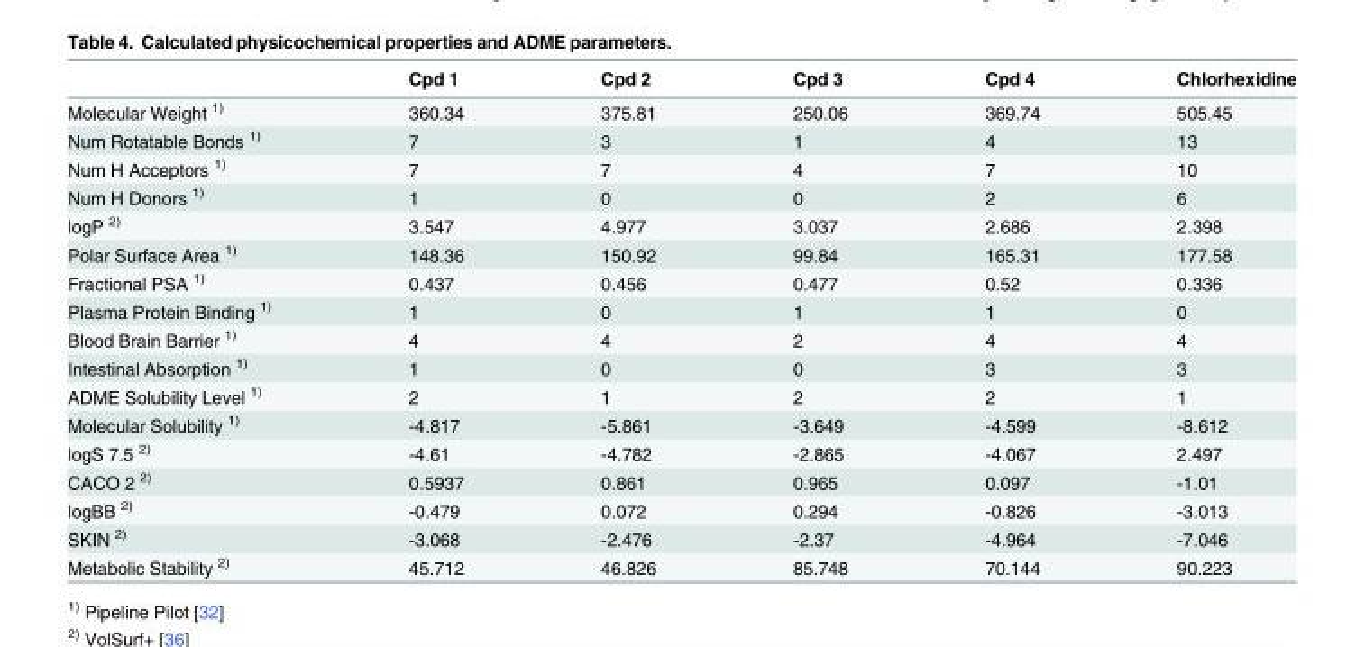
<table><thead><tr><td></td><td>Cpd 1</td><td>Cpd 2</td><td>Cpd 3</td><td>Cpd 4</td><td>Chlorhexidine</td></tr></thead><tbody><tr><td>Molecular Weight <sup>1)</sup></td><td>360.34</td><td>375.81</td><td>250.06</td><td>369.74</td><td>505.45</td></tr><tr><td>Num Rotatable Bonds <sup>1)</sup></td><td>7</td><td>3</td><td>1</td><td>4</td><td>13</td></tr><tr><td>Num H Acceptors <sup>1)</sup></td><td>7</td><td>7</td><td>4</td><td>7</td><td>10</td></tr><tr><td>Num H Donors <sup>1)</sup></td><td>1</td><td>0</td><td>0</td><td>2</td><td>6</td></tr><tr><td>logP <sup>2)</sup></td><td>3.547</td><td>4.977</td><td>3.037</td><td>2.686</td><td>2.398</td></tr><tr><td>Polar Surface Area <sup>1)</sup></td><td>148.36</td><td>150.92</td><td>99.84</td><td>165.31</td><td>177.58</td></tr><tr><td>Fractional PSA <sup>1)</sup></td><td>0.437</td><td>0.456</td><td>0.477</td><td>0.52</td><td>0.336</td></tr><tr><td>Plasma Protein Binding <sup>1)</sup></td><td>1</td><td>0</td><td>1</td><td>1</td><td>0</td></tr><tr><td>Blood Brain Barrier <sup>1)</sup></td><td>4</td><td>4</td><td>2</td><td>4</td><td>4</td></tr><tr><td>Intestinal Absorption <sup>1)</sup></td><td>1</td><td>0</td><td>0</td><td>3</td><td>3</td></tr><tr><td>ADME Solubility Level <sup>1)</sup></td><td>2</td><td>1</td><td>2</td><td>2</td><td>1</td></tr><tr><td>Molecular Solubility <sup>1)</sup></td><td>-4.817</td><td>-5.861</td><td>-3.649</td><td>-4.599</td><td>-8.612</td></tr><tr><td>logS 7.5 <sup>2)</sup></td><td>-4.61</td><td>-4.782</td><td>-2.865</td><td>-4.067</td><td>2.497</td></tr><tr><td>CACO 2 <sup>2)</sup></td><td>0.5937</td><td>0.861</td><td>0.965</td><td>0.097</td><td>-1.01</td></tr><tr><td>logBB <sup>2)</sup></td><td>-0.479</td><td>0.072</td><td>0.294</td><td>-0.826</td><td>-3.013</td></tr><tr><td>SKIN <sup>2)</sup></td><td>-3.068</td><td>-2.476</td><td>-2.37</td><td>-4.964</td><td>-7.046</td></tr><tr><td>Metabolic Stability <sup>2)</sup></td><td>45.712</td><td>46.826</td><td>85.748</td><td>70.144</td><td>90.223</td></tr></tbody></table>